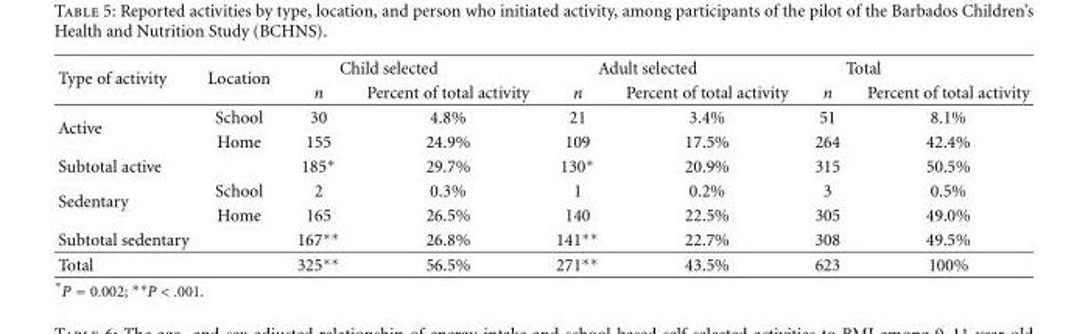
<table><thead><tr><td rowspan="2">Type of activity</td><td rowspan="2">Location</td><td colspan="2">Child selected</td><td colspan="2">Adult selected</td><td colspan="2">Total</td></tr><tr><td>n</td><td>Percent of total activity</td><td>n</td><td>Percent of total activity</td><td>n</td><td>Percent of total activity</td></tr></thead><tbody><tr><td rowspan="2">Active</td><td>School</td><td>30</td><td>4.8%</td><td>21</td><td>3.4%</td><td>51</td><td>8.1%</td></tr><tr><td>Home</td><td>155</td><td>24.9%</td><td>109</td><td>17.5%</td><td>264</td><td>42.4%</td></tr><tr><td>Subtotal active</td><td></td><td>185∗</td><td>29.7%</td><td>130∗</td><td>20.9%</td><td>315</td><td>50.5%</td></tr><tr><td rowspan="2">Sedentary</td><td>School</td><td>2</td><td>0.3%</td><td>1</td><td>0.2%</td><td>3</td><td>0.5%</td></tr><tr><td>Home</td><td>165</td><td>26.5%</td><td>140</td><td>22.5%</td><td>305</td><td>49.0%</td></tr><tr><td>Subtotal sedentary</td><td></td><td>167∗∗</td><td>26.8%</td><td>141∗∗</td><td>22.7%</td><td>308</td><td>49.5%</td></tr><tr><td>Total</td><td></td><td>325∗∗</td><td>56.5%</td><td>271∗∗</td><td>43.5%</td><td>623</td><td>100%</td></tr></tbody></table>